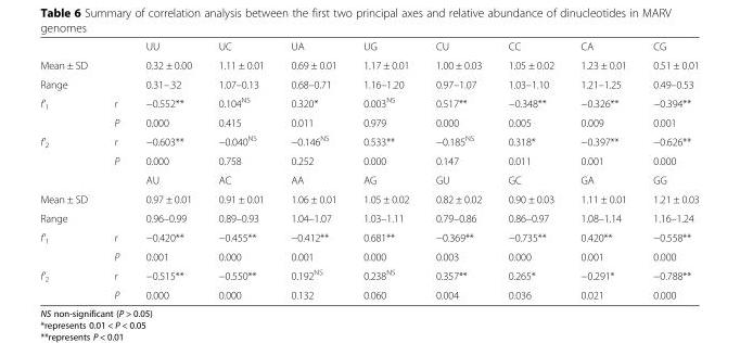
<table><thead><tr><td></td><td></td><td>UU</td><td>UC</td><td>UA</td><td>UG</td><td>CU</td><td>CC</td><td>CA</td><td>CG</td></tr></thead><tbody><tr><td>Mean ± SD</td><td></td><td>0.32 ± 0.00</td><td>1.11 ± 0.01</td><td>0.69 ± 0.01</td><td>1.17 ± 0.01</td><td>1.00 ± 0.03</td><td>1.05 ± 0.02</td><td>1.23 ± 0.01</td><td>0.51 ± 0.01</td></tr><tr><td>Range</td><td></td><td>0.31–.32</td><td>1.07–0.13</td><td>0.68–0.71</td><td>1.16–1.20</td><td>0.97–1.07</td><td>1.03–1.10</td><td>1.21–1.25</td><td>0.49–0.53</td></tr><tr><td rowspan="2">f&#x27;<sub>1</sub></td><td>r</td><td>−0.552**</td><td>0.104<sup>NS</sup></td><td>0.320*</td><td>0.003<sup>NS</sup></td><td>0.517**</td><td>−0.348**</td><td>−0.326**</td><td>−0.394**</td></tr><tr><td>P</td><td>0.000</td><td>0.415</td><td>0.011</td><td>0.979</td><td>0.000</td><td>0.005</td><td>0.009</td><td>0.001</td></tr><tr><td rowspan="3">f&#x27;<sub>2</sub></td><td>r</td><td>−0.603**</td><td>−0.040<sup>NS</sup></td><td>−0.146<sup>NS</sup></td><td>0.533**</td><td>−0.185<sup>NS</sup></td><td>0.318*</td><td>−0.397**</td><td>−0.626**</td></tr><tr><td>P</td><td>0.000</td><td>0.758</td><td>0.252</td><td>0.000</td><td>0.147</td><td>0.011</td><td>0.001</td><td>0.000</td></tr><tr><td></td><td>AU</td><td>AC</td><td>AA</td><td>AG</td><td>GU</td><td>GC</td><td>GA</td><td>GG</td></tr><tr><td>Mean ± SD</td><td></td><td>0.97 ± 0.01</td><td>0.91 ± 0.01</td><td>1.06 ± 0.01</td><td>1.05 ± 0.02</td><td>0.82 ± 0.02</td><td>0.90 ± 0.03</td><td>1.11 ± 0.01</td><td>1.21 ± 0.03</td></tr><tr><td>Range</td><td></td><td>0.96–0.99</td><td>0.89–0.93</td><td>1.04–1.07</td><td>1.03–1.11</td><td>0.79–0.86</td><td>0.86–0.97</td><td>1.08–1.14</td><td>1.16–1.24</td></tr><tr><td rowspan="2">f&#x27;<sub>1</sub></td><td>r</td><td>−0.420**</td><td>−0.455**</td><td>−0.412**</td><td>0.681**</td><td>−0.369**</td><td>−0.735**</td><td>0.420**</td><td>−0.558**</td></tr><tr><td>P</td><td>0.001</td><td>0.000</td><td>0.001</td><td>0.000</td><td>0.003</td><td>0.000</td><td>0.001</td><td>0.000</td></tr><tr><td rowspan="2">f&#x27;<sub>2</sub></td><td>r</td><td>−0.515**</td><td>−0.550**</td><td>0.192<sup>NS</sup></td><td>0.238<sup>NS</sup></td><td>0.357**</td><td>0.265*</td><td>−0.291*</td><td>−0.788**</td></tr><tr><td>P</td><td>0.000</td><td>0.000</td><td>0.132</td><td>0.060</td><td>0.004</td><td>0.036</td><td>0.021</td><td>0.000</td></tr></tbody></table>